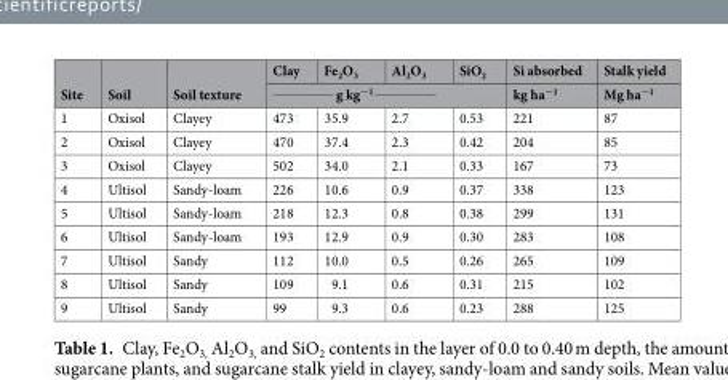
<table><thead><tr><td rowspan="2">Site</td><td rowspan="2">Soil</td><td rowspan="2">Soil texture</td><td>Clay</td><td>Fe<sub>2</sub>O<sub>3</sub></td><td>Al<sub>2</sub>O<sub>3</sub></td><td>SiO<sub>2</sub></td><td rowspan="2">Si absorbed kg ha<sup>−1</sup></td><td rowspan="2">Stalk yield Mg ha<sup>−1</sup></td></tr><tr><td colspan="4"><sup>_____________</sup> g kg<sup>−1 _____________</sup></td></tr></thead><tbody><tr><td>1</td><td>Oxisol</td><td>Clayey</td><td>473</td><td>35.9</td><td>2.7</td><td>0.53</td><td>221</td><td>87</td></tr><tr><td>2</td><td>Oxisol</td><td>Clayey</td><td>470</td><td>37.4</td><td>2.3</td><td>0.42</td><td>204</td><td>85</td></tr><tr><td>3</td><td>Oxisol</td><td>Clayey</td><td>502</td><td>34.0</td><td>2.1</td><td>0.33</td><td>167</td><td>73</td></tr><tr><td>4</td><td>Ultisol</td><td>Sandy-loam</td><td>226</td><td>10.6</td><td>0.9</td><td>0.37</td><td>338</td><td>123</td></tr><tr><td>5</td><td>Ultisol</td><td>Sandy-loam</td><td>218</td><td>12.3</td><td>0.8</td><td>0.38</td><td>299</td><td>131</td></tr><tr><td>6</td><td>Ultisol</td><td>Sandy-loam</td><td>193</td><td>12.9</td><td>0.9</td><td>0.30</td><td>283</td><td>108</td></tr><tr><td>7</td><td>Ultisol</td><td>Sandy</td><td>112</td><td>10.0</td><td>0.5</td><td>0.26</td><td>265</td><td>109</td></tr><tr><td>8</td><td>Ultisol</td><td>Sandy</td><td>109</td><td>9.1</td><td>0.6</td><td>0.31</td><td>215</td><td>102</td></tr><tr><td>9</td><td>Ultisol</td><td>Sandy</td><td>99</td><td>9.3</td><td>0.6</td><td>0.23</td><td>288</td><td>125</td></tr></tbody></table>